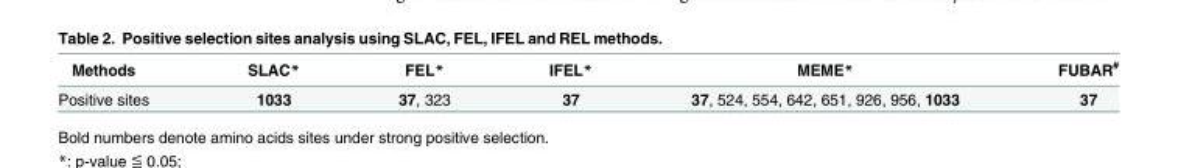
<table><thead><tr><td>Methods</td><td>SLAC*</td><td>FEL*</td><td>IFEL*</td><td>MEME*</td><td>FUBAR<sup>#</sup></td></tr></thead><tbody><tr><td>Positive sites</td><td>1033</td><td>37, 323</td><td>37</td><td>37, 524, 554, 642, 651, 926, 956, 1033</td><td>37</td></tr></tbody></table>